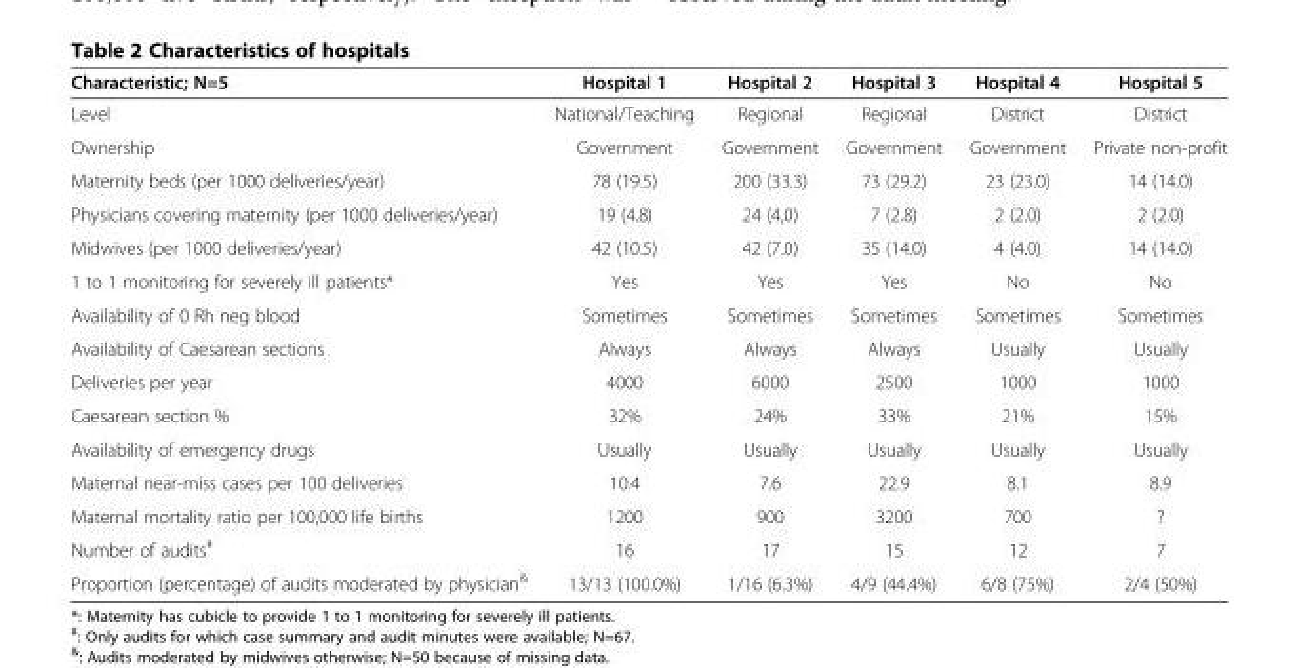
<table><thead><tr><td>Characteristic; N=5</td><td>Hospital 1</td><td>Hospital 2</td><td>Hospital 3</td><td>Hospital 4</td><td>Hospital 5</td></tr></thead><tbody><tr><td>Level</td><td>National/Teaching</td><td>Regional</td><td>Regional</td><td>District</td><td>District</td></tr><tr><td>Ownership</td><td>Government</td><td>Government</td><td>Government</td><td>Government</td><td>Private non-profit</td></tr><tr><td>Maternity beds (per 1000 deliveries/year)</td><td>78 (19.5)</td><td>200 (33.3)</td><td>73 (29.2)</td><td>23 (23.0)</td><td>14 (14.0)</td></tr><tr><td>Physicians covering maternity (per 1000 deliveries/year)</td><td>19 (4.8)</td><td>24 (4,0)</td><td>7 (2.8)</td><td>2 (2.0)</td><td>2 (2.0)</td></tr><tr><td>Midwives (per 1000 deliveries/year)</td><td>42 (10.5)</td><td>42 (7.0)</td><td>35 (14.0)</td><td>4 (4.0)</td><td>14 (14.0)</td></tr><tr><td>1 to 1 monitoring for severely ill patients*</td><td>Yes</td><td>Yes</td><td>Yes</td><td>No</td><td>No</td></tr><tr><td>Availability of 0 Rh neg blood</td><td>Sometimes</td><td>Sometimes</td><td>Sometimes</td><td>Sometimes</td><td>Sometimes</td></tr><tr><td>Availability of Caesarean sections</td><td>Always</td><td>Always</td><td>Always</td><td>Usually</td><td>Usually</td></tr><tr><td>Deliveries per year</td><td>4000</td><td>6000</td><td>2500</td><td>1000</td><td>1000</td></tr><tr><td>Caesarean section %</td><td>32%</td><td>24%</td><td>33%</td><td>21%</td><td>15%</td></tr><tr><td>Availability of emergency drugs</td><td>Usually</td><td>Usually</td><td>Usually</td><td>Usually</td><td>Usually</td></tr><tr><td>Maternal near-miss cases per 100 deliveries</td><td>10.4</td><td>7.6</td><td>22.9</td><td>8.1</td><td>8.9</td></tr><tr><td>Maternal mortality ratio per 100,000 life births</td><td>1200</td><td>900</td><td>3200</td><td>700</td><td>?</td></tr><tr><td>Number of audits<sup>#</sup></td><td>16</td><td>17</td><td>15</td><td>12</td><td>7</td></tr><tr><td>Proportion (percentage) of audits moderated by physician<sup>&amp;</sup></td><td>13/13 (100.0%)</td><td>1/16 (6.3%)</td><td>4/9 (44.4%)</td><td>6/8 (75%)</td><td>2/4 (50%)</td></tr></tbody></table>